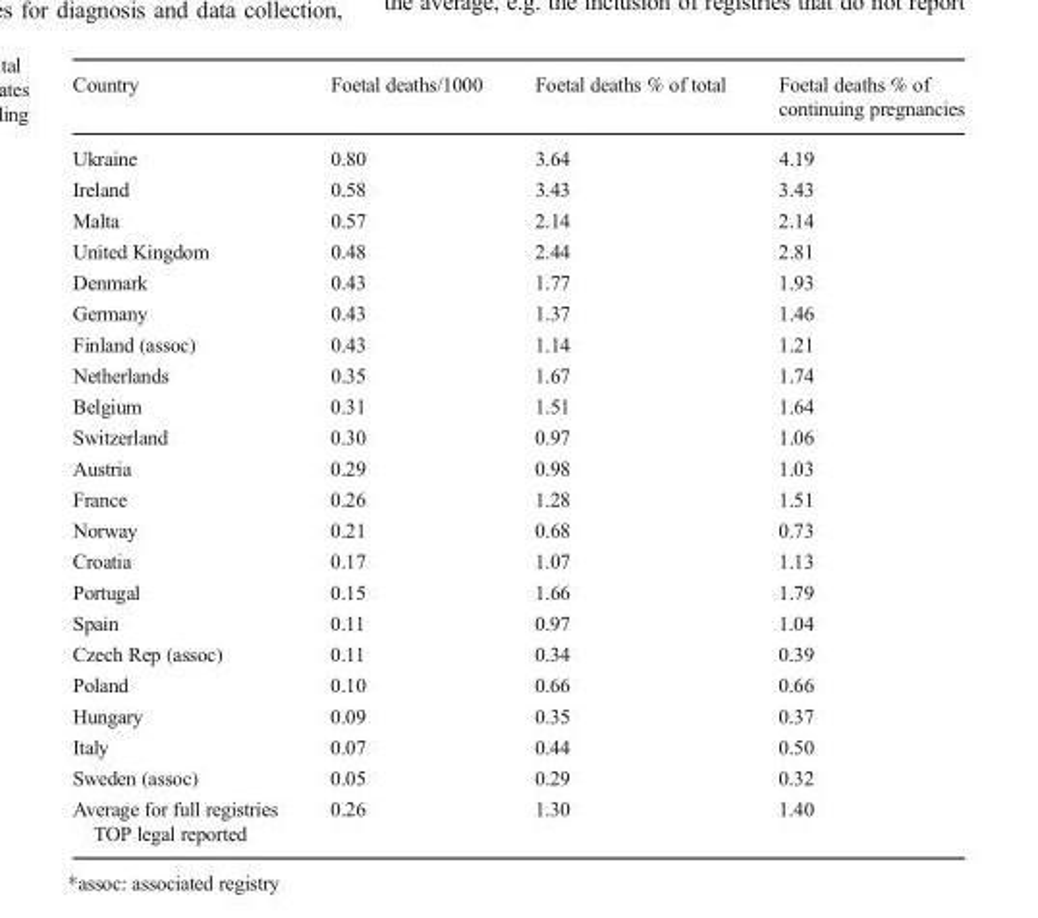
<table><thead><tr><td>Country</td><td>Foetal deaths/1000</td><td>Foetal deaths % of total</td><td>Foetal deaths % of continuing pregnancies</td></tr></thead><tbody><tr><td>Ukraine</td><td>0.80</td><td>3.64</td><td>4.19</td></tr><tr><td>Ireland</td><td>0.58</td><td>3.43</td><td>3.43</td></tr><tr><td>Malta</td><td>0.57</td><td>2.14</td><td>2.14</td></tr><tr><td>United Kingdom</td><td>0.48</td><td>2.44</td><td>2.81</td></tr><tr><td>Denmark</td><td>0.43</td><td>1.77</td><td>1.93</td></tr><tr><td>Germany</td><td>0.43</td><td>1.37</td><td>1.46</td></tr><tr><td>Finland (assoc)</td><td>0.43</td><td>1.14</td><td>1.21</td></tr><tr><td>Netherlands</td><td>0.35</td><td>1.67</td><td>1.74</td></tr><tr><td>Belgium</td><td>0.31</td><td>1.51</td><td>1.64</td></tr><tr><td>Switzerland</td><td>0.30</td><td>0.97</td><td>1.06</td></tr><tr><td>Austria</td><td>0.29</td><td>0.98</td><td>1.03</td></tr><tr><td>France</td><td>0.26</td><td>1.28</td><td>1.51</td></tr><tr><td>Norway</td><td>0.21</td><td>0.68</td><td>0.73</td></tr><tr><td>Croatia</td><td>0.17</td><td>1.07</td><td>1.13</td></tr><tr><td>Portugal</td><td>0.15</td><td>1.66</td><td>1.79</td></tr><tr><td>Spain</td><td>0.11</td><td>0.97</td><td>1.04</td></tr><tr><td>Czech Rep (assoc)</td><td>0.11</td><td>0.34</td><td>0.39</td></tr><tr><td>Poland</td><td>0.10</td><td>0.66</td><td>0.66</td></tr><tr><td>Hungary</td><td>0.09</td><td>0.35</td><td>0.37</td></tr><tr><td>Italy</td><td>0.07</td><td>0.44</td><td>0.50</td></tr><tr><td>Sweden (assoc)</td><td>0.05</td><td>0.29</td><td>0.32</td></tr><tr><td>Average for full registries TOP legal reported</td><td>0.26</td><td>1.30</td><td>1.40</td></tr></tbody></table>